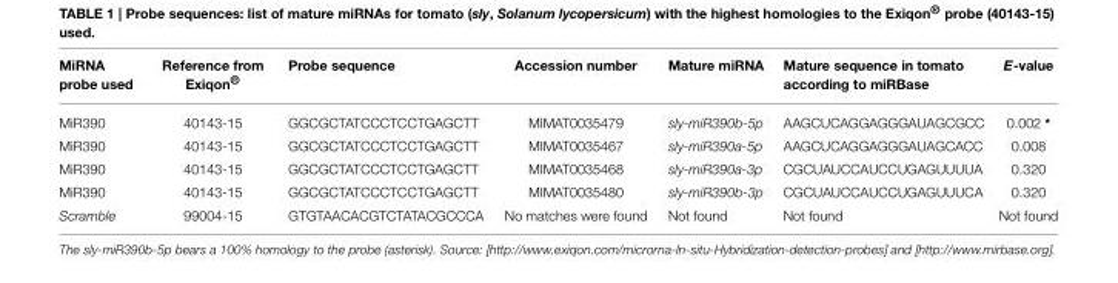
<table><thead><tr><td>MiRNA probe used</td><td>Reference from Exiqon<sup>®</sup></td><td>Probe sequence</td><td>Accession number</td><td>Mature miRNA</td><td>Mature sequence in tomato according to miRBase</td><td>E-value</td></tr></thead><tbody><tr><td>MiR390</td><td>40143-15</td><td>GGCGCTATCCCTCCTGAGCTT</td><td>MIMAT0035479</td><td>sly-miR390b-5p</td><td>AAGCUCAGGAGGGAUAGCGCC</td><td>0.002 *</td></tr><tr><td>MiR390</td><td>40143-15</td><td>GGCGCTATCCCTCCTGAGCTT</td><td>MIMAT0035467</td><td>sly-miR390a-5p</td><td>AAGCUCAGGAGGGAUAGCACC</td><td>0.008</td></tr><tr><td>MiR390</td><td>40143-15</td><td>GGCGCTATCCCTCCTGAGCTT</td><td>MIMAT0035468</td><td>sly-miR390a-3p</td><td>CGCUAUCCAUCCUGAGUUUUA</td><td>0.320</td></tr><tr><td>MiR390</td><td>40143-15</td><td>GGCGCTATCCCTCCTGAGCTT</td><td>MIMAT0035480</td><td>sly-miR390b-3p</td><td>CGCUAUCCAUCCUGAGUUUCA</td><td>0.320</td></tr><tr><td>Scramble</td><td>99004-15</td><td>GTGTAACACGTCTATACGCCCA</td><td>No matches were found</td><td>Not found</td><td>Not found</td><td>Not found</td></tr></tbody></table>